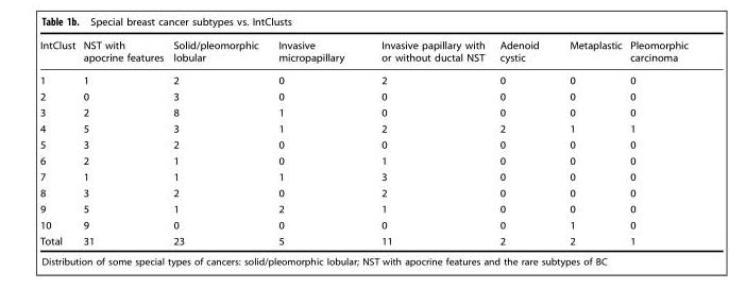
<table><thead><tr><td>IntClust</td><td>NST with apocrine features</td><td>Solid/pleomorphic lobular</td><td>Invasive micropapillary</td><td>Invasive papillary with or without ductal NST</td><td>Adenoid cystic</td><td>Metaplastic</td><td>Pleomorphic carcinoma</td></tr></thead><tbody><tr><td>1</td><td>1</td><td>2</td><td>0</td><td>2</td><td>0</td><td>0</td><td>0</td></tr><tr><td>2</td><td>0</td><td>3</td><td>0</td><td>0</td><td>0</td><td>0</td><td>0</td></tr><tr><td>3</td><td>2</td><td>8</td><td>1</td><td>0</td><td>0</td><td>0</td><td>0</td></tr><tr><td>4</td><td>5</td><td>3</td><td>1</td><td>2</td><td>2</td><td>1</td><td>1</td></tr><tr><td>5</td><td>3</td><td>2</td><td>0</td><td>0</td><td>0</td><td>0</td><td>0</td></tr><tr><td>6</td><td>2</td><td>1</td><td>0</td><td>1</td><td>0</td><td>0</td><td>0</td></tr><tr><td>7</td><td>1</td><td>1</td><td>1</td><td>3</td><td>0</td><td>0</td><td>0</td></tr><tr><td>8</td><td>3</td><td>2</td><td>0</td><td>2</td><td>0</td><td>0</td><td>0</td></tr><tr><td>9</td><td>5</td><td>1</td><td>2</td><td>1</td><td>0</td><td>0</td><td>0</td></tr><tr><td>10</td><td>9</td><td>0</td><td>0</td><td>0</td><td>0</td><td>1</td><td>0</td></tr><tr><td>Total</td><td>31</td><td>23</td><td>5</td><td>11</td><td>2</td><td>2</td><td>1</td></tr></tbody></table>